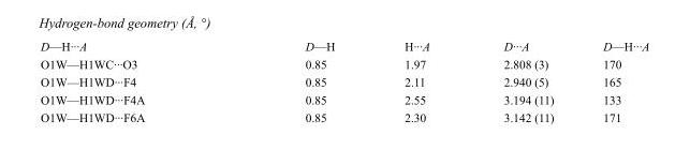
<table><tbody><tr><td>D—H···A</td><td>D—H</td><td>H···A</td><td>D···A</td><td>D—H···A</td></tr><tr><td>O1W—H1WC···O3</td><td>0.85</td><td>1.97</td><td>2.808 (3)</td><td>170</td></tr><tr><td>O1W—H1WD···F4</td><td>0.85</td><td>2.11</td><td>2.940 (5)</td><td>165</td></tr><tr><td>O1W—H1WD···F4A</td><td>0.85</td><td>2.55</td><td>3.194 (11)</td><td>133</td></tr><tr><td>O1W—H1WD···F6A</td><td>0.85</td><td>2.30</td><td>3.142 (11)</td><td>171</td></tr></tbody></table>